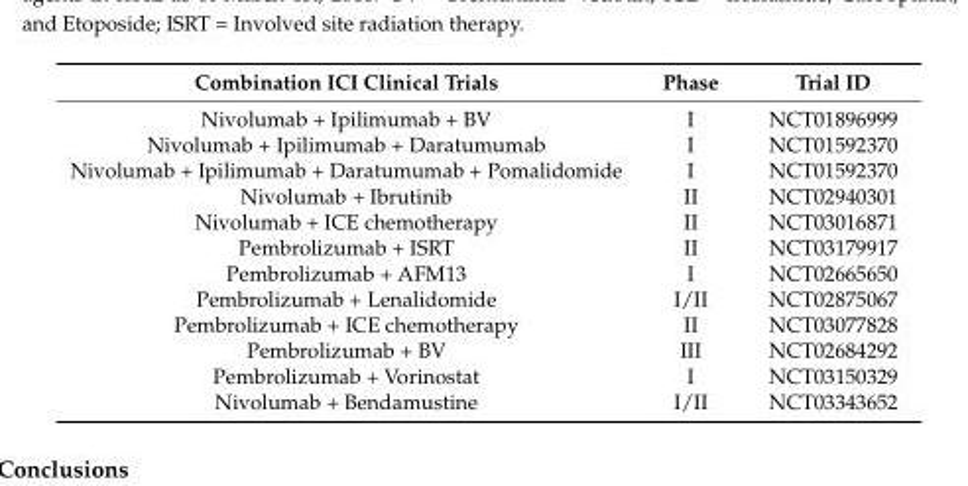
<table><thead><tr><td>Combination ICI Clinical Trials</td><td>Phase</td><td>Trial ID</td></tr></thead><tbody><tr><td>Nivolumab + Ipilimumab + BV</td><td>I</td><td>NCT01896999</td></tr><tr><td>Nivolumab + Ipilimumab + Daratumumab</td><td>I</td><td>NCT01592370</td></tr><tr><td>Nivolumab + Ipilimumab + Daratumumab + Pomalidomide</td><td>I</td><td>NCT01592370</td></tr><tr><td>Nivolumab + Ibrutinib</td><td>II</td><td>NCT02940301</td></tr><tr><td>Nivolumab + ICE chemotherapy</td><td>II</td><td>NCT03016871</td></tr><tr><td>Pembrolizumab + ISRT</td><td>II</td><td>NCT03179917</td></tr><tr><td>Pembrolizumab + AFM13</td><td>I</td><td>NCT02665650</td></tr><tr><td>Pembrolizumab + Lenalidomide</td><td>I/II</td><td>NCT02875067</td></tr><tr><td>Pembrolizumab + ICE chemotherapy</td><td>II</td><td>NCT03077828</td></tr><tr><td>Pembrolizumab + BV</td><td>III</td><td>NCT02684292</td></tr><tr><td>Pembrolizumab + Vorinostat</td><td>I</td><td>NCT03150329</td></tr><tr><td>Nivolumab + Bendamustine</td><td>I/II</td><td>NCT03343652</td></tr></tbody></table>